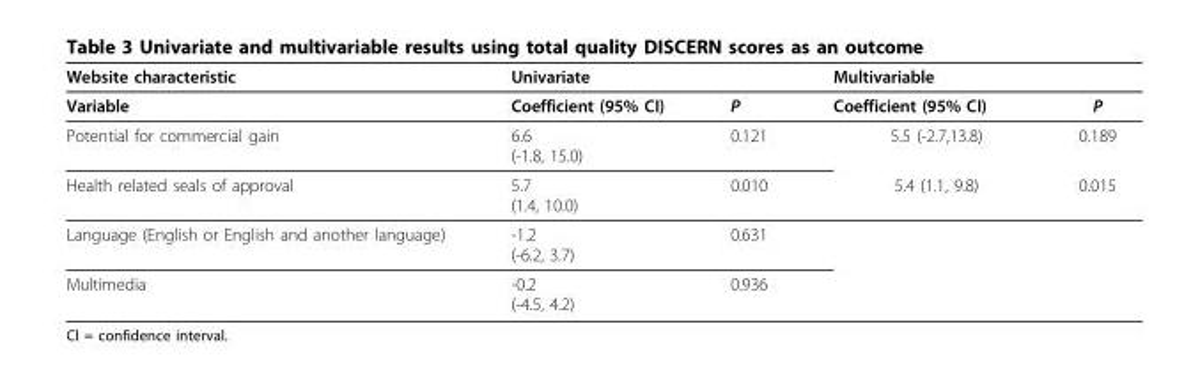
<table><thead><tr><td rowspan="2">Website characteristic Variable</td><td colspan="2">Univariate</td><td colspan="2">Multivariable</td></tr><tr><td>Coefficient (95% CI)</td><td>P</td><td>Coefficient (95% CI)</td><td>P</td></tr></thead><tbody><tr><td>Potential for commercial gain</td><td>6.6 (-1.8, 15.0)</td><td>0.121</td><td>5.5 (-2.7,13.8)</td><td>0.189</td></tr><tr><td>Health related seals of approval</td><td>5.7 (1.4, 10.0)</td><td>0.010</td><td>5.4 (1.1, 9.8)</td><td>0.015</td></tr><tr><td>Language (English or English and another language)</td><td>-1.2 (-6.2, 3.7)</td><td>0.631</td><td></td><td></td></tr><tr><td>Multimedia</td><td>-0.2 (-4.5, 4.2)</td><td>0.936</td><td></td><td></td></tr></tbody></table>